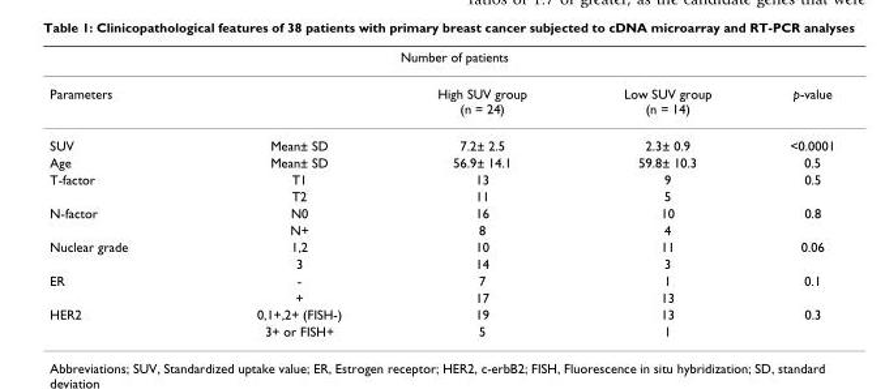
<table><thead><tr><td colspan="5">Number of patients</td></tr><tr><td>Parameters</td><td></td><td>High SUV group (n = 24)</td><td>Low SUV group (n = 14)</td><td>p-value</td></tr></thead><tbody><tr><td>SUV</td><td>Mean± SD</td><td>7.2± 2.5</td><td>2.3± 0.9</td><td>&lt;0.0001</td></tr><tr><td>Age</td><td>Mean± SD</td><td>56.9± 14.1</td><td>59.8± 10.3</td><td>0.5</td></tr><tr><td rowspan="2">T-factor</td><td>T1</td><td>13</td><td>9</td><td>0.5</td></tr><tr><td>T2</td><td>11</td><td>5</td><td></td></tr><tr><td rowspan="2">N-factor</td><td>N0</td><td>16</td><td>10</td><td>0.8</td></tr><tr><td>N+</td><td>8</td><td>4</td><td></td></tr><tr><td rowspan="2">Nuclear grade</td><td>1,2</td><td>10</td><td>11</td><td>0.06</td></tr><tr><td>3</td><td>14</td><td>3</td><td></td></tr><tr><td rowspan="2">ER</td><td>-</td><td>7</td><td>1</td><td>0.1</td></tr><tr><td>+</td><td>17</td><td>13</td><td></td></tr><tr><td rowspan="2">HER2</td><td>0,1+,2+ (FISH-)</td><td>19</td><td>13</td><td>0.3</td></tr><tr><td>3+ or FISH+</td><td>5</td><td>1</td><td></td></tr></tbody></table>